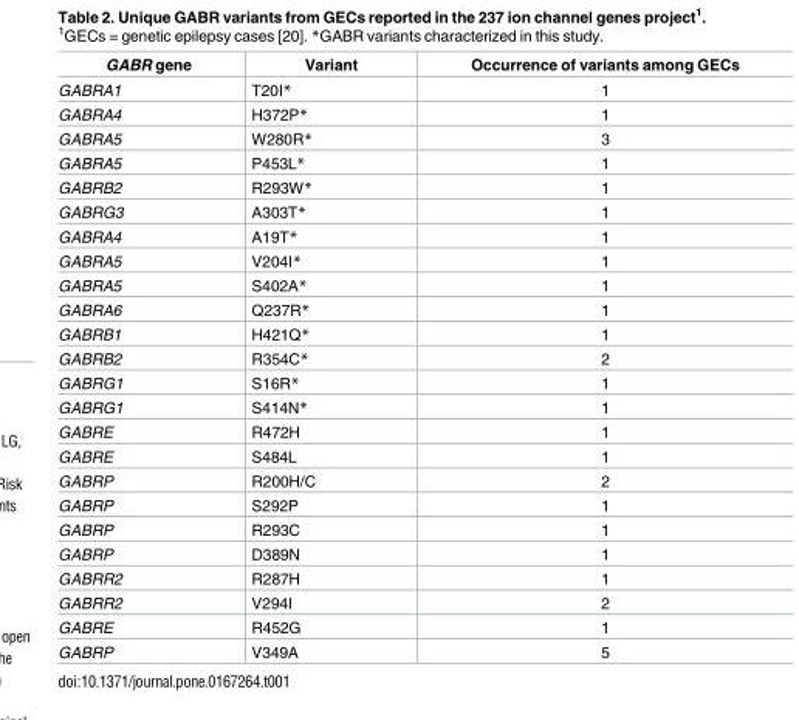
<table><thead><tr><td>GABR gene</td><td>Variant</td><td>Occurrence of variants among GECs</td></tr></thead><tbody><tr><td>GABRA1</td><td>T20I*</td><td>1</td></tr><tr><td>GABRA4</td><td>H372P*</td><td>1</td></tr><tr><td>GABRA5</td><td>W280R*</td><td>3</td></tr><tr><td>GABRA5</td><td>P453L*</td><td>1</td></tr><tr><td>GABRB2</td><td>R293W*</td><td>1</td></tr><tr><td>GABRG3</td><td>A303T*</td><td>1</td></tr><tr><td>GABRA4</td><td>A19T*</td><td>1</td></tr><tr><td>GABRA5</td><td>V204I*</td><td>1</td></tr><tr><td>GABRA5</td><td>S402A*</td><td>1</td></tr><tr><td>GABRA6</td><td>Q237R*</td><td>1</td></tr><tr><td>GABRB1</td><td>H421Q*</td><td>1</td></tr><tr><td>GABRB2</td><td>R354C*</td><td>2</td></tr><tr><td>GABRG1</td><td>S16R*</td><td>1</td></tr><tr><td>GABRG1</td><td>S414N*</td><td>1</td></tr><tr><td>GABRE</td><td>R472H</td><td>1</td></tr><tr><td>GABRE</td><td>S484L</td><td>1</td></tr><tr><td>GABRP</td><td>R200H/C</td><td>2</td></tr><tr><td>GABRP</td><td>S292P</td><td>1</td></tr><tr><td>GABRP</td><td>R293C</td><td>1</td></tr><tr><td>GABRP</td><td>D389N</td><td>1</td></tr><tr><td>GABRR2</td><td>R287H</td><td>1</td></tr><tr><td>GABRR2</td><td>V294I</td><td>2</td></tr><tr><td>GABRE</td><td>R452G</td><td>1</td></tr><tr><td>GABRP</td><td>V349A</td><td>5</td></tr></tbody></table>